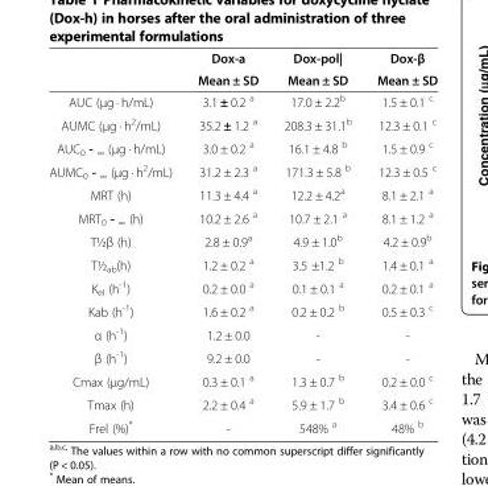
<table><thead><tr><td rowspan="2"></td><td rowspan="2">Dox-a Mean ± SD</td><td rowspan="2">Dox-pol| Mean ± SD</td><td rowspan="2">Dox-β Mean ± SD</td></tr><tr></tr></thead><tbody><tr><td>AUC (μg · h/mL)</td><td>3.1 ± 0.2 <sup>a</sup></td><td>17.0 ± 2.2<sup>b</sup></td><td>1.5 ± 0.1 <sup>c</sup></td></tr><tr><td>AUMC (μg · h<sup>2</sup>/mL)</td><td>35.2 ± 1.2 <sup>a</sup></td><td>208.3 ± 31.1<sup>b</sup></td><td>12.3 ± 0.1 <sup>c</sup></td></tr><tr><td>AUC<sub>0</sub> - <sub>∞</sub> (μg · h/mL)</td><td>3.0 ± 0.2 <sup>a</sup></td><td>16.1 ± 4.8 <sup>b</sup></td><td>1.5 ± 0.9 <sup>c</sup></td></tr><tr><td>AUMC<sub>0</sub> - <sub>∞</sub> (μg · h<sup>2</sup>/mL)</td><td>31.2 ± 2.3 <sup>a</sup></td><td>171.3 ± 5.8 <sup>b</sup></td><td>12.3 ± 0.5 <sup>c</sup></td></tr><tr><td>MRT (h)</td><td>11.3 ± 4.4 <sup>a</sup></td><td>12.2 ± 4.2<sup>a</sup></td><td>8.1 ± 2.1 <sup>a</sup></td></tr><tr><td>MRT<sub>0</sub> - <sub>∞</sub> (h)</td><td>10.2 ± 2.6 <sup>a</sup></td><td>10.7 ± 2.1 <sup>a</sup></td><td>8.1 ± 1.2 <sup>a</sup></td></tr><tr><td>T½β (h)</td><td>2.8 ± 0.9<sup>a</sup></td><td>4.9 ± 1.0<sup>b</sup></td><td>4.2 ± 0.9<sup>b</sup></td></tr><tr><td>T½<sub>ab</sub>(h)</td><td>1.2 ± 0.2 <sup>a</sup></td><td>3.5 ±1.2 <sup>b</sup></td><td>1.4 ± 0.1 <sup>a</sup></td></tr><tr><td>K<sub>el</sub> (h<sup>-1</sup>)</td><td>0.2 ± 0.0 <sup>a</sup></td><td>0.1 ± 0.1 <sup>a</sup></td><td>0.2 ± 0.1 <sup>a</sup></td></tr><tr><td>Kab (h<sup>-1</sup>)</td><td>1.6 ± 0.2 <sup>a</sup></td><td>0.2 ± 0.2 <sup>b</sup></td><td>0.5 ± 0.3 <sup>c</sup></td></tr><tr><td>α (h<sup>-1</sup>)</td><td>1.2 ± 0.0</td><td>-</td><td>-</td></tr><tr><td>β (h<sup>-1</sup>)</td><td>9.2 ± 0.0</td><td>-</td><td>-</td></tr><tr><td>Cmax (μg/mL)</td><td>0.3 ± 0.1 <sup>a</sup></td><td>1.3 ± 0.7 <sup>b</sup></td><td>0.2 ± 0.0 <sup>c</sup></td></tr><tr><td>Tmax (h)</td><td>2.2 ± 0.4 <sup>a</sup></td><td>5.9 ± 1.7 <sup>b</sup></td><td>3.4 ± 0.6 <sup>c</sup></td></tr><tr><td>Frel (%)*</td><td>-</td><td>548% <sup>a</sup></td><td>48% <sup>b</sup></td></tr></tbody></table>